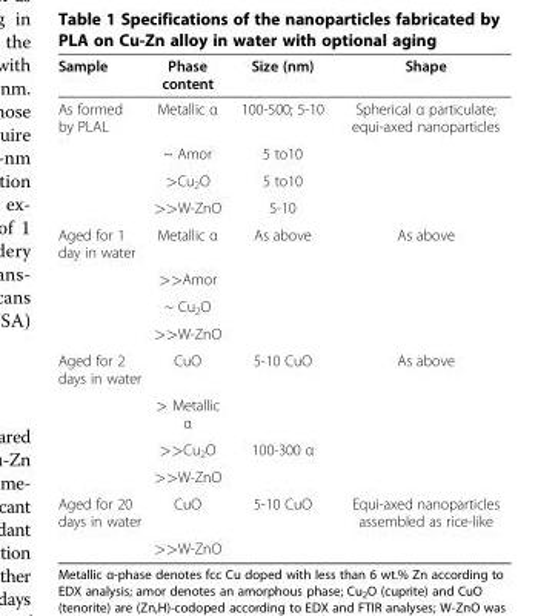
<table><thead><tr><td>Sample</td><td>Phase content</td><td>Size (nm)</td><td>Shape</td></tr></thead><tbody><tr><td rowspan="4">As formed by PLAL</td><td>Metallic α</td><td>100-500; 5-10</td><td>Spherical α particulate; equi-axed nanoparticles</td></tr><tr><td>~ Amor</td><td>5 to10</td><td></td></tr><tr><td>&gt;Cu<sub>2</sub>O</td><td>5 to10</td><td></td></tr><tr><td>&gt;&gt;W-ZnO</td><td>5-10</td><td></td></tr><tr><td rowspan="4">Aged for 1 day in water</td><td>Metallic α</td><td>As above</td><td>As above</td></tr><tr><td>&gt;&gt;Amor</td><td></td><td></td></tr><tr><td>~ Cu<sub>2</sub>O</td><td></td><td></td></tr><tr><td>&gt;&gt;W-ZnO</td><td></td><td></td></tr><tr><td rowspan="4">Aged for 2 days in water</td><td>CuO</td><td>5-10 CuO</td><td>As above</td></tr><tr><td>&gt; Metallic α</td><td></td><td></td></tr><tr><td>&gt;&gt;Cu<sub>2</sub>O</td><td>100-300 α</td><td></td></tr><tr><td>&gt;&gt;W-ZnO</td><td></td><td></td></tr><tr><td rowspan="2">Aged for 20 days in water</td><td>CuO</td><td>5-10 CuO</td><td>Equi-axed nanoparticles assembled as rice-like</td></tr><tr><td>&gt;&gt;W-ZnO</td><td></td><td></td></tr></tbody></table>